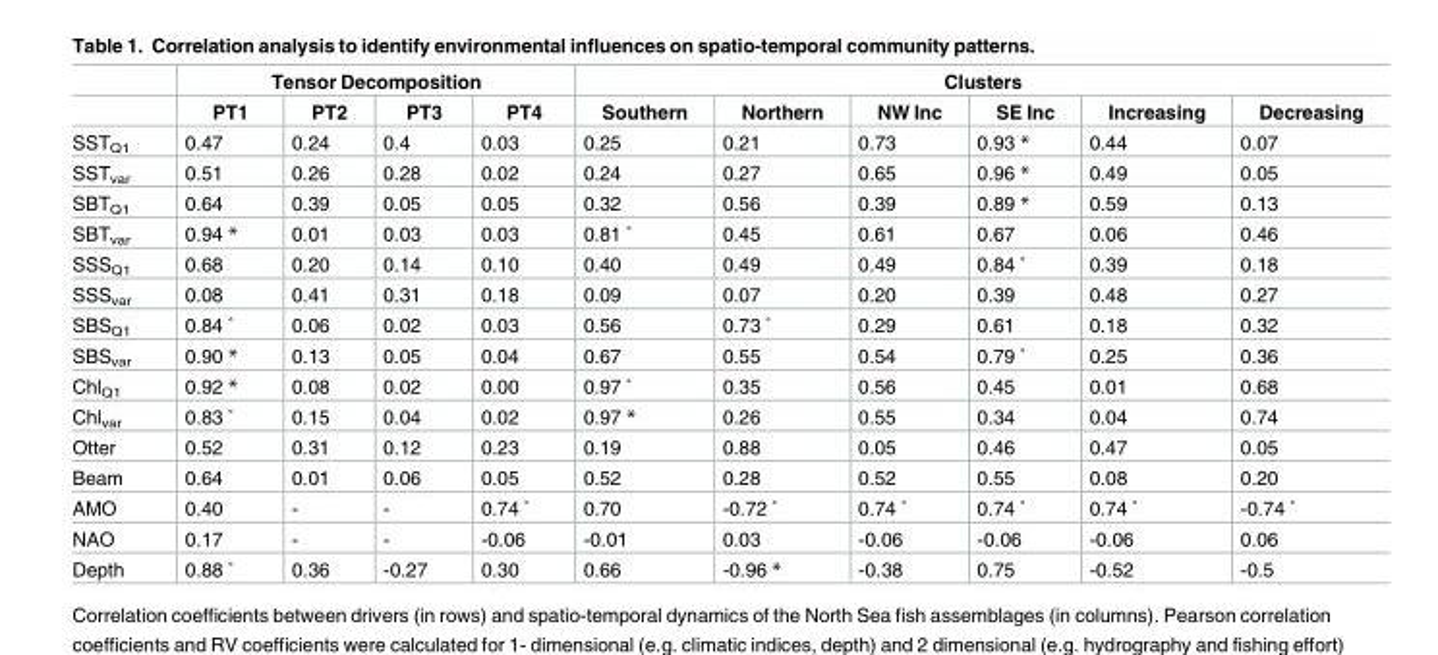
<table><thead><tr><td rowspan="2"></td><td colspan="4">Tensor Decomposition</td><td colspan="6">Clusters</td></tr><tr><td>PT1</td><td>PT2</td><td>PT3</td><td>PT4</td><td>Southern</td><td>Northern</td><td>NW Inc</td><td>SE Inc</td><td>Increasing</td><td>Decreasing</td></tr></thead><tbody><tr><td>SST<sub>Q1</sub></td><td>0.47</td><td>0.24</td><td>0.4</td><td>0.03</td><td>0.25</td><td>0.21</td><td>0.73</td><td>0.93 *</td><td>0.44</td><td>0.07</td></tr><tr><td>SST<sub>var</sub></td><td>0.51</td><td>0.26</td><td>0.28</td><td>0.02</td><td>0.24</td><td>0.27</td><td>0.65</td><td>0.96 *</td><td>0.49</td><td>0.05</td></tr><tr><td>SBT<sub>Q1</sub></td><td>0.64</td><td>0.39</td><td>0.05</td><td>0.05</td><td>0.32</td><td>0.56</td><td>0.39</td><td>0.89 *</td><td>0.59</td><td>0.13</td></tr><tr><td>SBT<sub>var</sub></td><td>0.94 *</td><td>0.01</td><td>0.03</td><td>0.03</td><td>0.81 ˚</td><td>0.45</td><td>0.61</td><td>0.67</td><td>0.06</td><td>0.46</td></tr><tr><td>SSS<sub>Q1</sub></td><td>0.68</td><td>0.20</td><td>0.14</td><td>0.10</td><td>0.40</td><td>0.49</td><td>0.49</td><td>0.84 ˚</td><td>0.39</td><td>0.18</td></tr><tr><td>SSS<sub>var</sub></td><td>0.08</td><td>0.41</td><td>0.31</td><td>0.18</td><td>0.09</td><td>0.07</td><td>0.20</td><td>0.39</td><td>0.48</td><td>0.27</td></tr><tr><td>SBS<sub>Q1</sub></td><td>0.84 ˚</td><td>0.06</td><td>0.02</td><td>0.03</td><td>0.56</td><td>0.73 ˚</td><td>0.29</td><td>0.61</td><td>0.18</td><td>0.32</td></tr><tr><td>SBS<sub>var</sub></td><td>0.90 *</td><td>0.13</td><td>0.05</td><td>0.04</td><td>0.67</td><td>0.55</td><td>0.54</td><td>0.79 ˚</td><td>0.25</td><td>0.36</td></tr><tr><td>Chl<sub>Q1</sub></td><td>0.92 *</td><td>0.08</td><td>0.02</td><td>0.00</td><td>0.97 ˚</td><td>0.35</td><td>0.56</td><td>0.45</td><td>0.01</td><td>0.68</td></tr><tr><td>Chl<sub>var</sub></td><td>0.83 ˚</td><td>0.15</td><td>0.04</td><td>0.02</td><td>0.97 *</td><td>0.26</td><td>0.55</td><td>0.34</td><td>0.04</td><td>0.74</td></tr><tr><td>Otter</td><td>0.52</td><td>0.31</td><td>0.12</td><td>0.23</td><td>0.19</td><td>0.88</td><td>0.05</td><td>0.46</td><td>0.47</td><td>0.05</td></tr><tr><td>Beam</td><td>0.64</td><td>0.01</td><td>0.06</td><td>0.05</td><td>0.52</td><td>0.28</td><td>0.52</td><td>0.55</td><td>0.08</td><td>0.20</td></tr><tr><td>AMO</td><td>0.40</td><td>-</td><td>-</td><td>0.74 ˚</td><td>0.70</td><td>-0.72 ˚</td><td>0.74 ˚</td><td>0.74 ˚</td><td>0.74 ˚</td><td>-0.74 ˚</td></tr><tr><td>NAO</td><td>0.17</td><td>-</td><td>-</td><td>-0.06</td><td>-0.01</td><td>0.03</td><td>-0.06</td><td>-0.06</td><td>-0.06</td><td>0.06</td></tr><tr><td>Depth</td><td>0.88 ˚</td><td>0.36</td><td>-0.27</td><td>0.30</td><td>0.66</td><td>-0.96 *</td><td>-0.38</td><td>0.75</td><td>-0.52</td><td>-0.5</td></tr></tbody></table>